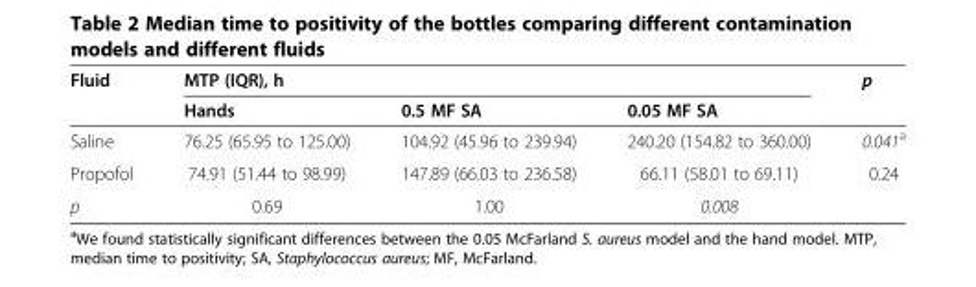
<table><thead><tr><td rowspan="2">Fluid</td><td colspan="3">MTP (IQR), h</td><td rowspan="2">p</td></tr><tr><td>Hands</td><td>0.5 MF SA</td><td>0.05 MF SA</td></tr></thead><tbody><tr><td>Saline</td><td>76.25 (65.95 to 125.00)</td><td>104.92 (45.96 to 239.94)</td><td>240.20 (154.82 to 360.00)</td><td>0.041<sup>a</sup></td></tr><tr><td>Propofol</td><td>74.91 (51.44 to 98.99)</td><td>147.89 (66.03 to 236.58)</td><td>66.11 (58.01 to 69.11)</td><td>0.24</td></tr><tr><td>p</td><td>0.69</td><td>1.00</td><td>0.008</td><td></td></tr></tbody></table>